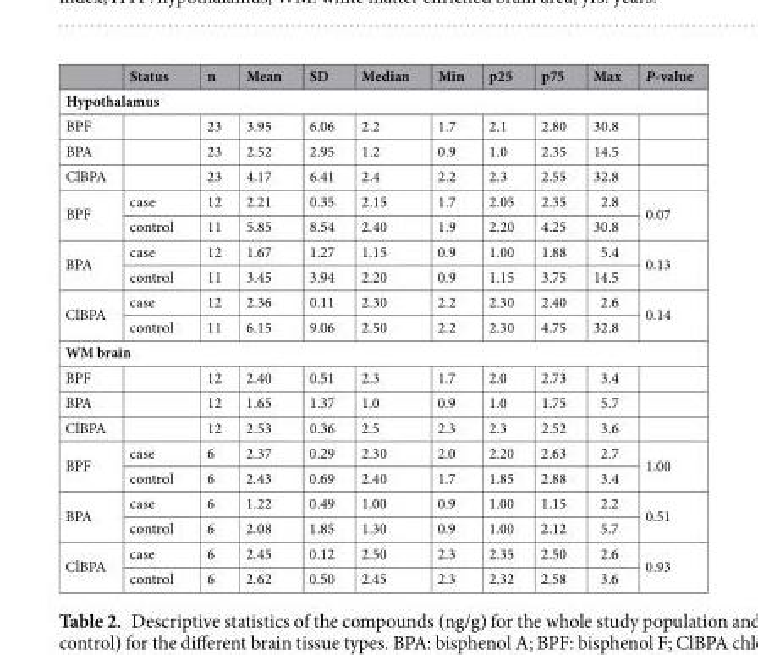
<table><thead><tr><td></td><td>Status</td><td>n</td><td>Mean</td><td>SD</td><td>Median</td><td>Min</td><td>p25</td><td>p75</td><td>Max</td><td>P-value</td></tr></thead><tbody><tr><td colspan="11">Hypothalamus</td></tr><tr><td>BPF</td><td></td><td>23</td><td>3.95</td><td>6.06</td><td>2.2</td><td>1.7</td><td>2.1</td><td>2.80</td><td>30.8</td><td></td></tr><tr><td>BPA</td><td></td><td>23</td><td>2.52</td><td>2.95</td><td>1.2</td><td>0.9</td><td>1.0</td><td>2.35</td><td>14.5</td><td></td></tr><tr><td>ClBPA</td><td></td><td>23</td><td>4.17</td><td>6.41</td><td>2.4</td><td>2.2</td><td>2.3</td><td>2.55</td><td>32.8</td><td></td></tr><tr><td rowspan="2">BPF</td><td>case</td><td>12</td><td>2.21</td><td>0.35</td><td>2.15</td><td>1.7</td><td>2.05</td><td>2.35</td><td>2.8</td><td rowspan="2">0.07</td></tr><tr><td>control</td><td>11</td><td>5.85</td><td>8.54</td><td>2.40</td><td>1.9</td><td>2.20</td><td>4.25</td><td>30.8</td></tr><tr><td rowspan="2">BPA</td><td>case</td><td>12</td><td>1.67</td><td>1.27</td><td>1.15</td><td>0.9</td><td>1.00</td><td>1.88</td><td>5.4</td><td rowspan="2">0.13</td></tr><tr><td>control</td><td>11</td><td>3.45</td><td>3.94</td><td>2.20</td><td>0.9</td><td>1.15</td><td>3.75</td><td>14.5</td></tr><tr><td rowspan="2">ClBPA</td><td>case</td><td>12</td><td>2.36</td><td>0.11</td><td>2.30</td><td>2.2</td><td>2.30</td><td>2.40</td><td>2.6</td><td rowspan="2">0.14</td></tr><tr><td>control</td><td>11</td><td>6.15</td><td>9.06</td><td>2.50</td><td>2.2</td><td>2.30</td><td>4.75</td><td>32.8</td></tr><tr><td colspan="11">WM brain</td></tr><tr><td>BPF</td><td></td><td>12</td><td>2.40</td><td>0.51</td><td>2.3</td><td>1.7</td><td>2.0</td><td>2.73</td><td>3.4</td><td></td></tr><tr><td>BPA</td><td></td><td>12</td><td>1.65</td><td>1.37</td><td>1.0</td><td>0.9</td><td>1.0</td><td>1.75</td><td>5.7</td><td></td></tr><tr><td>ClBPA</td><td></td><td>12</td><td>2.53</td><td>0.36</td><td>2.5</td><td>2.3</td><td>2.3</td><td>2.52</td><td>3.6</td><td></td></tr><tr><td rowspan="2">BPF</td><td>case</td><td>6</td><td>2.37</td><td>0.29</td><td>2.30</td><td>2.0</td><td>2.20</td><td>2.63</td><td>2.7</td><td rowspan="2">1.00</td></tr><tr><td>control</td><td>6</td><td>2.43</td><td>0.69</td><td>2.40</td><td>1.7</td><td>1.85</td><td>2.88</td><td>3.4</td></tr><tr><td rowspan="2">BPA</td><td>case</td><td>6</td><td>1.22</td><td>0.49</td><td>1.00</td><td>0.9</td><td>1.00</td><td>1.15</td><td>2.2</td><td rowspan="2">0.51</td></tr><tr><td>control</td><td>6</td><td>2.08</td><td>1.85</td><td>1.30</td><td>0.9</td><td>1.00</td><td>2.12</td><td>5.7</td></tr><tr><td rowspan="2">ClBPA</td><td>case</td><td>6</td><td>2.45</td><td>0.12</td><td>2.50</td><td>2.3</td><td>2.35</td><td>2.50</td><td>2.6</td><td rowspan="2">0.93</td></tr><tr><td>control</td><td>6</td><td>2.62</td><td>0.50</td><td>2.45</td><td>2.3</td><td>2.32</td><td>2.58</td><td>3.6</td></tr></tbody></table>